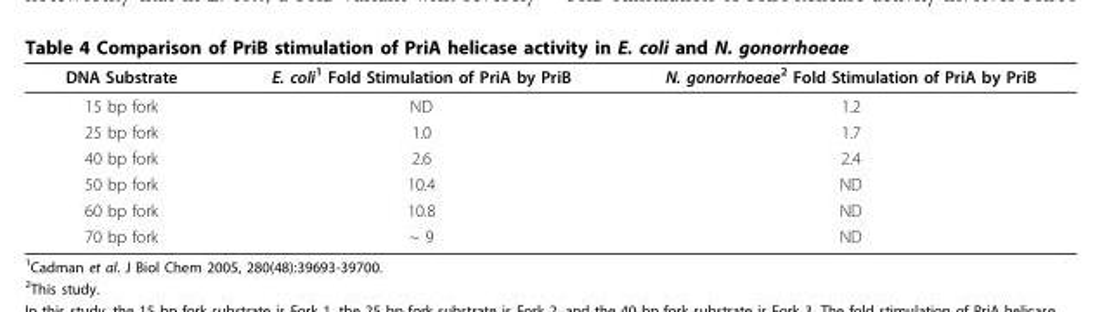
<table><thead><tr><td>DNA Substrate</td><td>E. coli<sup>1</sup> Fold Stimulation of PriA by PriB</td><td>N. gonorrhoeae<sup>2</sup> Fold Stimulation of PriA by PriB</td></tr></thead><tbody><tr><td>15 bp fork</td><td>ND</td><td>1.2</td></tr><tr><td>25 bp fork</td><td>1.0</td><td>1.7</td></tr><tr><td>40 bp fork</td><td>2.6</td><td>2.4</td></tr><tr><td>50 bp fork</td><td>10.4</td><td>ND</td></tr><tr><td>60 bp fork</td><td>10.8</td><td>ND</td></tr><tr><td>70 bp fork</td><td>~ 9</td><td>ND</td></tr></tbody></table>